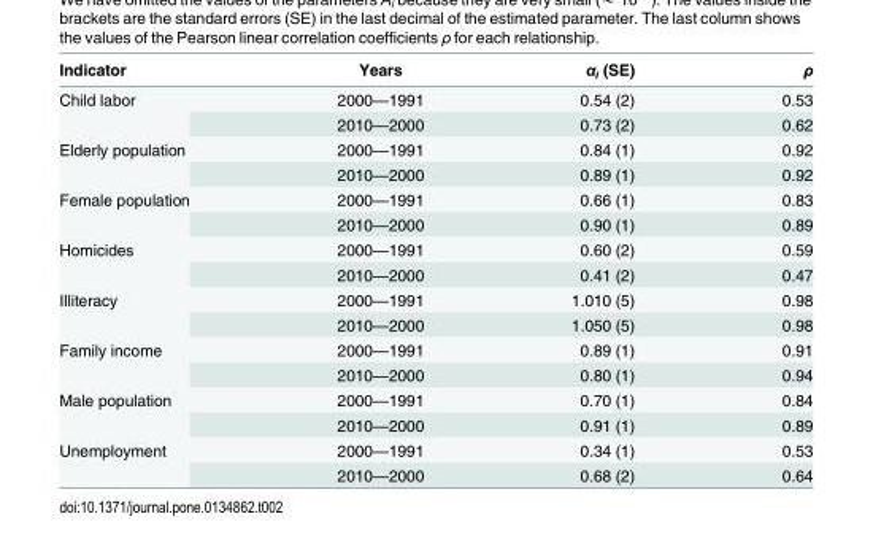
<table><thead><tr><td>Indicator</td><td>Years</td><td>α<sub>i</sub> (SE)</td><td>ρ</td></tr></thead><tbody><tr><td rowspan="2">Child labor</td><td>2000—1991</td><td>0.54 (2)</td><td>0.53</td></tr><tr><td>2010—2000</td><td>0.73 (2)</td><td>0.62</td></tr><tr><td rowspan="2">Elderly population</td><td>2000—1991</td><td>0.84 (1)</td><td>0.92</td></tr><tr><td>2010—2000</td><td>0.89 (1)</td><td>0.92</td></tr><tr><td rowspan="2">Female population</td><td>2000—1991</td><td>0.66 (1)</td><td>0.83</td></tr><tr><td>2010—2000</td><td>0.90 (1)</td><td>0.89</td></tr><tr><td rowspan="2">Homicides</td><td>2000—1991</td><td>0.60 (2)</td><td>0.59</td></tr><tr><td>2010—2000</td><td>0.41 (2)</td><td>0.47</td></tr><tr><td rowspan="2">Illiteracy</td><td>2000—1991</td><td>1.010 (5)</td><td>0.98</td></tr><tr><td>2010—2000</td><td>1.050 (5)</td><td>0.98</td></tr><tr><td rowspan="2">Family income</td><td>2000—1991</td><td>0.89 (1)</td><td>0.91</td></tr><tr><td>2010—2000</td><td>0.80 (1)</td><td>0.94</td></tr><tr><td rowspan="2">Male population</td><td>2000—1991</td><td>0.70 (1)</td><td>0.84</td></tr><tr><td>2010—2000</td><td>0.91 (1)</td><td>0.89</td></tr><tr><td rowspan="2">Unemployment</td><td>2000—1991</td><td>0.34 (1)</td><td>0.53</td></tr><tr><td>2010—2000</td><td>0.68 (2)</td><td>0.64</td></tr></tbody></table>